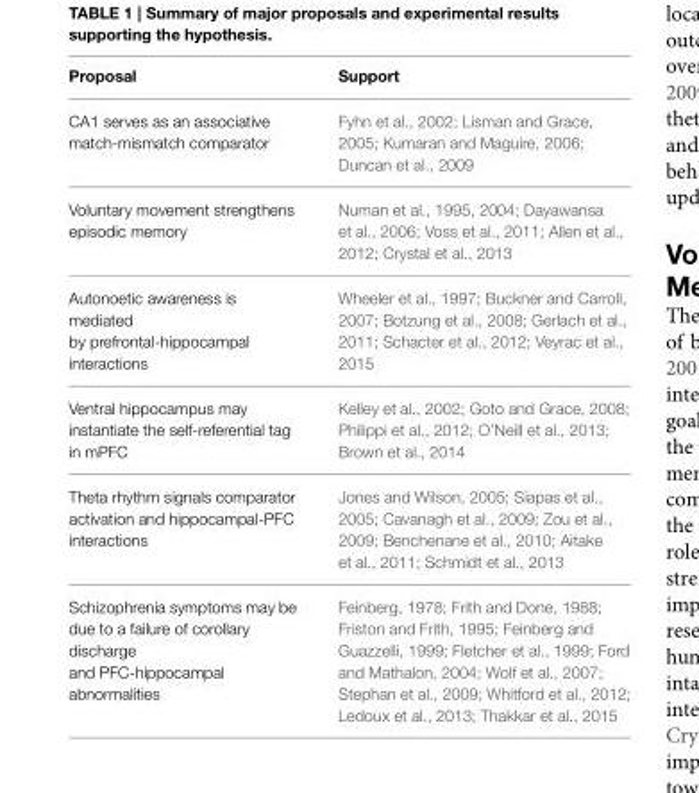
<table><thead><tr><td>Proposal</td><td>Support</td></tr></thead><tbody><tr><td>CA1 serves as an associative match-mismatch comparator</td><td>Fyhn et al., 2002; Lisman and Grace, 2005; Kumaran and Maguire, 2006; Duncan et al., 2009</td></tr><tr><td>Voluntary movement strengthens episodic memory</td><td>Numan et al., 1995, 2004; Dayawansa et al., 2006; Voss et al., 2011; Allen et al., 2012; Crystal et al., 2013</td></tr><tr><td>Autonoetic awareness is mediated by prefrontal-hippocampal interactions</td><td>Wheeler et al., 1997; Buckner and Carroll, 2007; Botzung et al., 2008; Gerlach et al., 2011; Schacter et al., 2012; Veyrac et al., 2015</td></tr><tr><td>Ventral hippocampus may instantiate the self-referential tag in mPFC</td><td>Kelley et al., 2002; Goto and Grace, 2008; Philippi et al., 2012; O’Neill et al., 2013; Brown et al., 2014</td></tr><tr><td>Theta rhythm signals comparator activation and hippocampal-PFC interactions</td><td>Jones and Wilson, 2005; Siapas et al., 2005; Cavanagh et al., 2009; Zou et al., 2009; Benchenane et al., 2010; Aitake et al., 2011; Schmidt et al., 2013</td></tr><tr><td>Schizophrenia symptoms may be due to a failure of corollary discharge and PFC-hippocampal abnormalities</td><td>Feinberg, 1978; Frith and Done, 1988; Friston and Frith, 1995; Feinberg and Guazzelli, 1999; Fletcher et al., 1999; Ford and Mathalon, 2004; Wolf et al., 2007; Stephan et al., 2009; Whitford et al., 2012; Ledoux et al., 2013; Thakkar et al., 2015</td></tr></tbody></table>